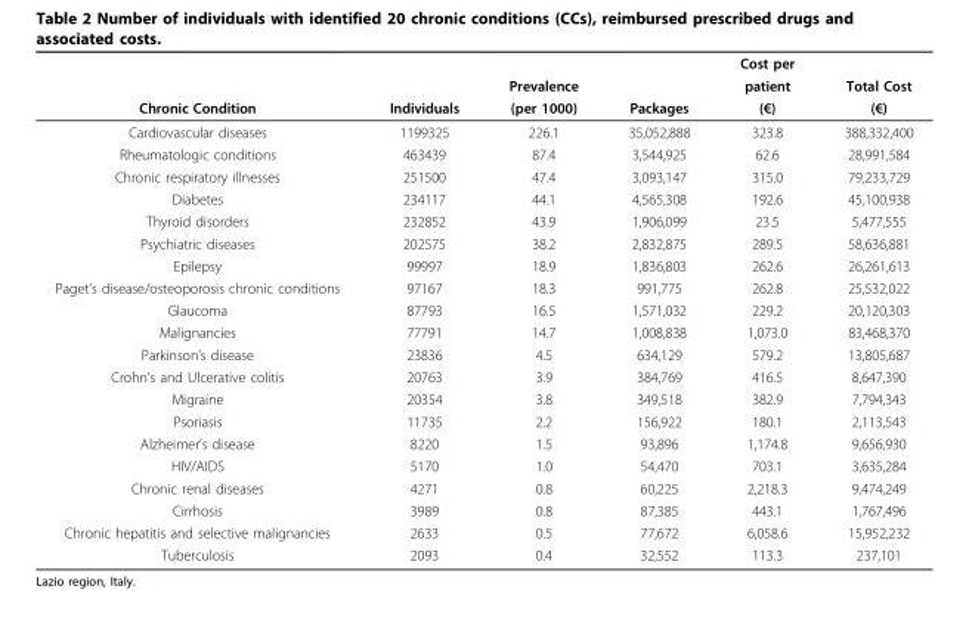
<table><thead><tr><td rowspan="3">Chronic Condition</td><td rowspan="3">Individuals</td><td rowspan="3">Prevalence (per 1000)</td><td rowspan="3">Packages</td><td rowspan="3">Cost per patient (€)</td><td rowspan="3">Total Cost (€)</td></tr><tr></tr><tr></tr></thead><tbody><tr><td>Cardiovascular diseases</td><td>1199325</td><td>226.1</td><td>35,052,888</td><td>323.8</td><td>388,332,400</td></tr><tr><td>Rheumatologic conditions</td><td>463439</td><td>87.4</td><td>3,544,925</td><td>62.6</td><td>28,991,584</td></tr><tr><td>Chronic respiratory illnesses</td><td>251500</td><td>47.4</td><td>3,093,147</td><td>315.0</td><td>79,233,729</td></tr><tr><td>Diabetes</td><td>234117</td><td>44.1</td><td>4,565,308</td><td>192.6</td><td>45,100,938</td></tr><tr><td>Thyroid disorders</td><td>232852</td><td>43.9</td><td>1,906,099</td><td>23.5</td><td>5,477,555</td></tr><tr><td>Psychiatric diseases</td><td>202575</td><td>38.2</td><td>2,832,875</td><td>289.5</td><td>58,636,881</td></tr><tr><td>Epilepsy</td><td>99997</td><td>18.9</td><td>1,836,803</td><td>262.6</td><td>26,261,613</td></tr><tr><td>Paget’s disease/osteoporosis chronic conditions</td><td>97167</td><td>18.3</td><td>991,775</td><td>262.8</td><td>25,532,022</td></tr><tr><td>Glaucoma</td><td>87793</td><td>16.5</td><td>1,571,032</td><td>229.2</td><td>20,120,303</td></tr><tr><td>Malignancies</td><td>77791</td><td>14.7</td><td>1,008,838</td><td>1,073.0</td><td>83,468,370</td></tr><tr><td>Parkinson’s disease</td><td>23836</td><td>4.5</td><td>634,129</td><td>579.2</td><td>13,805,687</td></tr><tr><td>Crohn’s and Ulcerative colitis</td><td>20763</td><td>3.9</td><td>384,769</td><td>416.5</td><td>8,647,390</td></tr><tr><td>Migraine</td><td>20354</td><td>3.8</td><td>349,518</td><td>382.9</td><td>7,794,343</td></tr><tr><td>Psoriasis</td><td>11735</td><td>2.2</td><td>156,922</td><td>180.1</td><td>2,113,543</td></tr><tr><td>Alzheimer’s disease</td><td>8220</td><td>1.5</td><td>93,896</td><td>1,174.8</td><td>9,656,930</td></tr><tr><td>HIV/AIDS</td><td>5170</td><td>1.0</td><td>54,470</td><td>703.1</td><td>3,635,284</td></tr><tr><td>Chronic renal diseases</td><td>4271</td><td>0.8</td><td>60,225</td><td>2,218.3</td><td>9,474,249</td></tr><tr><td>Cirrhosis</td><td>3989</td><td>0.8</td><td>87,385</td><td>443.1</td><td>1,767,496</td></tr><tr><td>Chronic hepatitis and selective malignancies</td><td>2633</td><td>0.5</td><td>77,672</td><td>6,058.6</td><td>15,952,232</td></tr><tr><td>Tuberculosis</td><td>2093</td><td>0.4</td><td>32,552</td><td>113.3</td><td>237,101</td></tr></tbody></table>